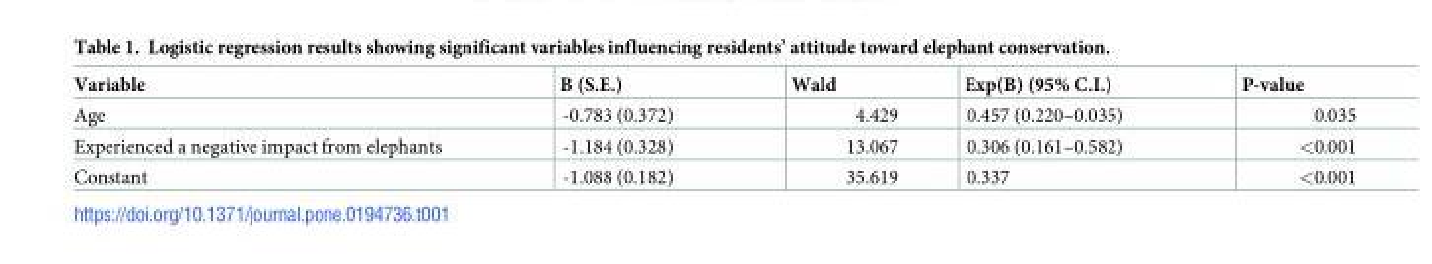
<table><thead><tr><td>Variable</td><td>B (S.E.)</td><td>Wald</td><td>Exp(B) (95% C.I.)</td><td>P-value</td></tr></thead><tbody><tr><td>Age</td><td>-0.783 (0.372)</td><td>4.429</td><td>0.457 (0.220–0.035)</td><td>0.035</td></tr><tr><td>Experienced a negative impact from elephants</td><td>-1.184 (0.328)</td><td>13.067</td><td>0.306 (0.161–0.582)</td><td>&lt;0.001</td></tr><tr><td>Constant</td><td>-1.088 (0.182)</td><td>35.619</td><td>0.337</td><td>&lt;0.001</td></tr></tbody></table>